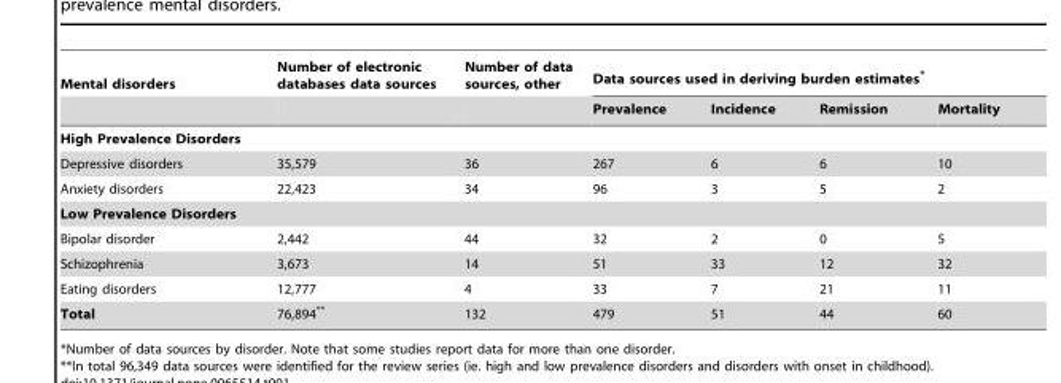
<table><thead><tr><td rowspan="2">Mental disorders</td><td rowspan="2">Number of electronic databases data sources</td><td rowspan="2">Number of data sources, other</td><td colspan="4">Data sources used in deriving burden estimates*</td></tr><tr><td>Prevalence</td><td>Incidence</td><td>Remission</td><td>Mortality</td></tr></thead><tbody><tr><td colspan="7">High Prevalence Disorders</td></tr><tr><td>Depressive disorders</td><td>35,579</td><td>36</td><td>267</td><td>6</td><td>6</td><td>10</td></tr><tr><td>Anxiety disorders</td><td>22,423</td><td>34</td><td>96</td><td>3</td><td>5</td><td>2</td></tr><tr><td colspan="7">Low Prevalence Disorders</td></tr><tr><td>Bipolar disorder</td><td>2,442</td><td>44</td><td>32</td><td>2</td><td>0</td><td>5</td></tr><tr><td>Schizophrenia</td><td>3,673</td><td>14</td><td>51</td><td>33</td><td>12</td><td>32</td></tr><tr><td>Eating disorders</td><td>12,777</td><td>4</td><td>33</td><td>7</td><td>21</td><td>11</td></tr><tr><td>Total</td><td>76,894**</td><td>132</td><td>479</td><td>51</td><td>44</td><td>60</td></tr></tbody></table>